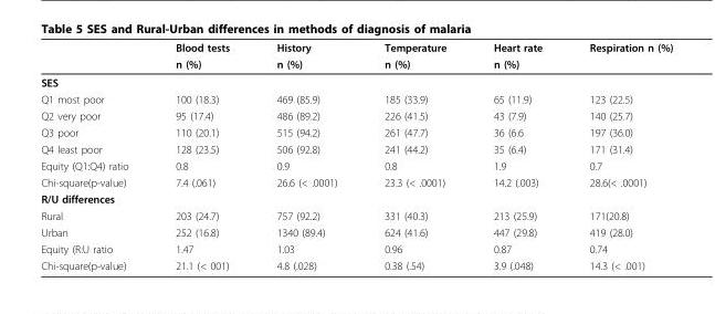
<table><thead><tr><td rowspan="2"></td><td rowspan="2">Blood tests n (%)</td><td rowspan="2">History n (%)</td><td rowspan="2">Temperature n (%)</td><td rowspan="2">Heart rate n (%)</td><td rowspan="2">Respiration n (%)</td></tr><tr></tr></thead><tbody><tr><td colspan="6">SES</td></tr><tr><td>Q1 most poor</td><td>100 (18.3)</td><td>469 (85.9)</td><td>185 (33.9)</td><td>65 (11.9)</td><td>123 (22.5)</td></tr><tr><td>Q2 very poor</td><td>95 (17.4)</td><td>486 (89.2)</td><td>226 (41.5)</td><td>43 (7.9)</td><td>140 (25.7)</td></tr><tr><td>Q3 poor</td><td>110 (20.1)</td><td>515 (94.2)</td><td>261 (47.7)</td><td>36 (6.6</td><td>197 (36.0)</td></tr><tr><td>Q4 least poor</td><td>128 (23.5)</td><td>506 (92.8)</td><td>241 (44.2)</td><td>35 (6.4)</td><td>171 (31.4)</td></tr><tr><td>Equity (Q1:Q4) ratio</td><td>0.8</td><td>0.9</td><td>0.8</td><td>1.9</td><td>0.7</td></tr><tr><td>Chi-square(p-value)</td><td>7.4 (.061)</td><td>26.6 (&lt; .0001)</td><td>23.3 (&lt; .0001)</td><td>14.2 (.003)</td><td>28.6(&lt; .0001)</td></tr><tr><td colspan="6">R/U differences</td></tr><tr><td>Rural</td><td>203 (24.7)</td><td>757 (92.2)</td><td>331 (40.3)</td><td>213 (25.9)</td><td>171(20.8)</td></tr><tr><td>Urban</td><td>252 (16.8)</td><td>1340 (89.4)</td><td>624 (41.6)</td><td>447 (29.8)</td><td>419 (28.0)</td></tr><tr><td>Equity (R:U ratio</td><td>1.47</td><td>1.03</td><td>0.96</td><td>0.87</td><td>0.74</td></tr><tr><td>Chi-square(p-value)</td><td>21.1 (&lt; 001)</td><td>4.8 (.028)</td><td>0.38 (.54)</td><td>3.9 (.048)</td><td>14.3 (&lt; .001)</td></tr></tbody></table>